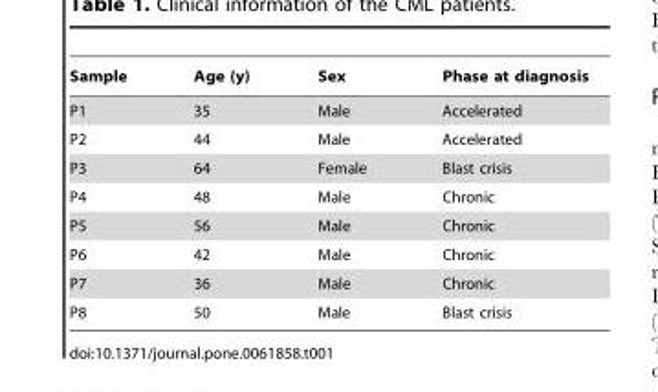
<table><thead><tr><td>Sample</td><td>Age (y)</td><td>Sex</td><td>Phase at diagnosis</td></tr></thead><tbody><tr><td>P1</td><td>35</td><td>Male</td><td>Accelerated</td></tr><tr><td>P2</td><td>44</td><td>Male</td><td>Accelerated</td></tr><tr><td>P3</td><td>64</td><td>Female</td><td>Blast crisis</td></tr><tr><td>P4</td><td>48</td><td>Male</td><td>Chronic</td></tr><tr><td>P5</td><td>56</td><td>Male</td><td>Chronic</td></tr><tr><td>P6</td><td>42</td><td>Male</td><td>Chronic</td></tr><tr><td>P7</td><td>36</td><td>Male</td><td>Chronic</td></tr><tr><td>P8</td><td>50</td><td>Male</td><td>Blast crisis</td></tr></tbody></table>